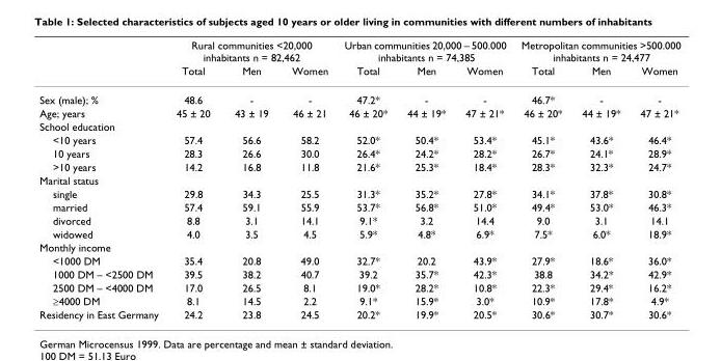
<table><thead><tr><td rowspan="2"></td><td colspan="3">Rural communities &lt;20,000 inhabitants n = 82,462</td><td colspan="3">Urban communities 20,000 – 500.000 inhabitants n = 74,385</td><td colspan="3">Metropolitan communities &gt;500.000 inhabitants n = 24,477</td></tr><tr><td>Total</td><td>Men</td><td>Women</td><td>Total</td><td>Men</td><td>Women</td><td>Total</td><td>Men</td><td>Women</td></tr></thead><tbody><tr><td>Sex (male); %</td><td>48.6</td><td>-</td><td>-</td><td>47.2*</td><td>-</td><td>-</td><td>46.7*</td><td>-</td><td>-</td></tr><tr><td>Age; years</td><td>45 ± 20</td><td>43 ± 19</td><td>46 ± 21</td><td>46 ± 20*</td><td>44 ± 19*</td><td>47 ± 21*</td><td>46 ± 20*</td><td>44 ± 19*</td><td>47 ± 21*</td></tr><tr><td colspan="10">School education</td></tr><tr><td>&lt;10 years</td><td>57.4</td><td>56.6</td><td>58.2</td><td>52.0*</td><td>50.4*</td><td>53.4*</td><td>45.1*</td><td>43.6*</td><td>46.4*</td></tr><tr><td>10 years</td><td>28.3</td><td>26.6</td><td>30.0</td><td>26.4*</td><td>24.2*</td><td>28.2*</td><td>26.7*</td><td>24.1*</td><td>28.9*</td></tr><tr><td>&gt;10 years</td><td>14.2</td><td>16.8</td><td>11.8</td><td>21.6*</td><td>25.3*</td><td>18.4*</td><td>28.3*</td><td>32.3*</td><td>24.7*</td></tr><tr><td colspan="10">Marital status</td></tr><tr><td>single</td><td>29.8</td><td>34.3</td><td>25.5</td><td>31.3*</td><td>35.2*</td><td>27.8*</td><td>34.1*</td><td>37.8*</td><td>30.8*</td></tr><tr><td>married</td><td>57.4</td><td>59.1</td><td>55.9</td><td>53.7*</td><td>56.8*</td><td>51.0*</td><td>49.4*</td><td>53.0*</td><td>46.3*</td></tr><tr><td>divorced</td><td>8.8</td><td>3.1</td><td>14.1</td><td>9.1*</td><td>3.2</td><td>14.4</td><td>9.0</td><td>3.1</td><td>14.1</td></tr><tr><td>widowed</td><td>4.0</td><td>3.5</td><td>4.5</td><td>5.9*</td><td>4.8*</td><td>6.9*</td><td>7.5*</td><td>6.0*</td><td>18.9*</td></tr><tr><td colspan="10">Monthly income</td></tr><tr><td>&lt;1000 DM</td><td>35.4</td><td>20.8</td><td>49.0</td><td>32.7*</td><td>20.2</td><td>43.9*</td><td>27.9*</td><td>18.6*</td><td>36.0*</td></tr><tr><td>1000 DM – &lt;2500 DM</td><td>39.5</td><td>38.2</td><td>40.7</td><td>39.2</td><td>35.7*</td><td>42.3*</td><td>38.8</td><td>34.2*</td><td>42.9*</td></tr><tr><td>2500 DM – &lt;4000 DM</td><td>17.0</td><td>26.5</td><td>8.1</td><td>19.0*</td><td>28.2*</td><td>10.8*</td><td>22.3*</td><td>29.4*</td><td>16.2*</td></tr><tr><td>≥4000 DM</td><td>8.1</td><td>14.5</td><td>2.2</td><td>9.1*</td><td>15.9*</td><td>3.0*</td><td>10.9*</td><td>17.8*</td><td>4.9*</td></tr><tr><td>Residency in East Germany</td><td>24.2</td><td>23.8</td><td>24.5</td><td>20.2*</td><td>19.9*</td><td>20.5*</td><td>30.6*</td><td>30.7*</td><td>30.6*</td></tr></tbody></table>